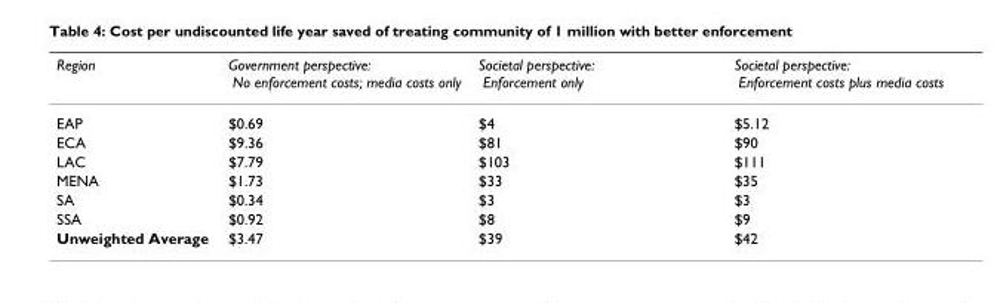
<table><thead><tr><td>Region</td><td>Government perspective: No enforcement costs; media costs only</td><td>Societal perspective: Enforcement only</td><td>Societal perspective: Enforcement costs plus media costs</td></tr></thead><tbody><tr><td>EAP</td><td>$0.69</td><td>$4</td><td>$5.12</td></tr><tr><td>ECA</td><td>$9.36</td><td>$81</td><td>$90</td></tr><tr><td>LAC</td><td>$7.79</td><td>$103</td><td>$111</td></tr><tr><td>MENA</td><td>$1.73</td><td>$33</td><td>$35</td></tr><tr><td>SA</td><td>$0.34</td><td>$3</td><td>$3</td></tr><tr><td>SSA</td><td>$0.92</td><td>$8</td><td>$9</td></tr><tr><td>Unweighted Average</td><td>$3.47</td><td>$39</td><td>$42</td></tr></tbody></table>